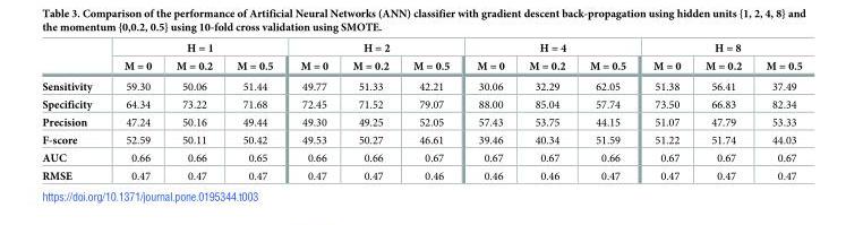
<table><thead><tr><td rowspan="2"></td><td colspan="3">H = 1</td><td colspan="3">H = 2</td><td colspan="3">H = 4</td><td colspan="3">H = 8</td></tr><tr><td>M = 0</td><td>M = 0.2</td><td>M = 0.5</td><td>M = 0</td><td>M = 0.2</td><td>M = 0.5</td><td>M = 0</td><td>M = 0.2</td><td>M = 0.5</td><td>M = 0</td><td>M = 0.2</td><td>M = 0.5</td></tr></thead><tbody><tr><td>Sensitivity</td><td>59.30</td><td>50.06</td><td>51.44</td><td>49.77</td><td>51.33</td><td>42.21</td><td>30.06</td><td>32.29</td><td>62.05</td><td>51.38</td><td>56.41</td><td>37.49</td></tr><tr><td>Specificity</td><td>64.34</td><td>73.22</td><td>71.68</td><td>72.45</td><td>71.52</td><td>79.07</td><td>88.00</td><td>85.04</td><td>57.74</td><td>73.50</td><td>66.83</td><td>82.34</td></tr><tr><td>Precision</td><td>47.24</td><td>50.16</td><td>49.44</td><td>49.30</td><td>49.25</td><td>52.05</td><td>57.43</td><td>53.75</td><td>44.15</td><td>51.07</td><td>47.79</td><td>53.33</td></tr><tr><td>F-score</td><td>52.59</td><td>50.11</td><td>50.42</td><td>49.53</td><td>50.27</td><td>46.61</td><td>39.46</td><td>40.34</td><td>51.59</td><td>51.22</td><td>51.74</td><td>44.03</td></tr><tr><td>AUC</td><td>0.66</td><td>0.66</td><td>0.65</td><td>0.66</td><td>0.66</td><td>0.67</td><td>0.67</td><td>0.67</td><td>0.66</td><td>0.67</td><td>0.67</td><td>0.67</td></tr><tr><td>RMSE</td><td>0.47</td><td>0.47</td><td>0.47</td><td>0.47</td><td>0.47</td><td>0.46</td><td>0.46</td><td>0.46</td><td>0.47</td><td>0.47</td><td>0.47</td><td>0.47</td></tr></tbody></table>